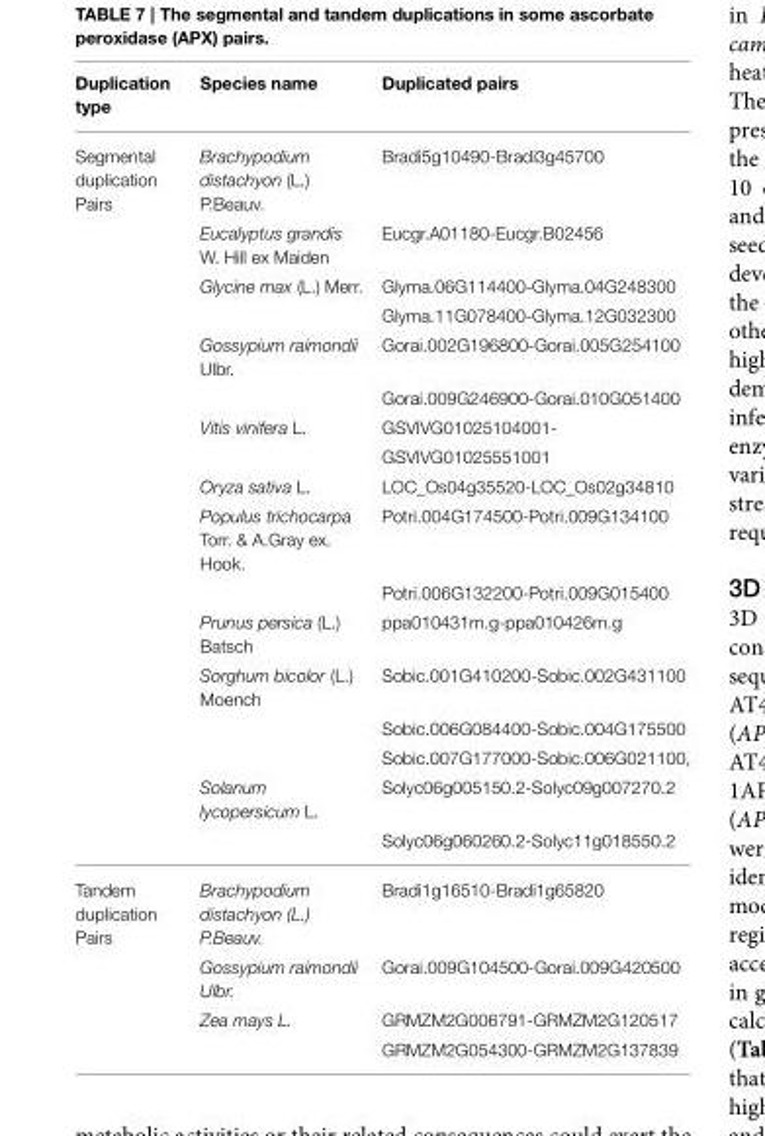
<table><thead><tr><td>Duplication type</td><td>Species name</td><td>Duplicated pairs</td></tr></thead><tbody><tr><td rowspan="17">Segmental duplication Pairs</td><td>Brachypodium distachyon (L.) P.Beauv.</td><td>Bradi5g10490-Bradi3g45700</td></tr><tr><td>Eucalyptus grandis W. Hill ex Maiden</td><td>Eucgr.A01180-Eucgr.B02456</td></tr><tr><td>Glycine max (L.) Merr.</td><td>Glyma.06G114400-Glyma.04G248300</td></tr><tr><td></td><td>Glyma.11G078400-Glyma.12G032300</td></tr><tr><td>Gossypium raimondii Ulbr.</td><td>Gorai.002G196800-Gorai.005G254100</td></tr><tr><td></td><td>Gorai.009G246900-Gorai.010G051400</td></tr><tr><td>Vitis vinifera L.</td><td>GSVIVG01025104001-</td></tr><tr><td></td><td>GSVIVG01025551001</td></tr><tr><td>Oryza sativa L.</td><td>LOC_Os04g35520-LOC_Os02g34810</td></tr><tr><td>Populus trichocarpa Torr. &amp; A.Gray ex. Hook.</td><td>Potri.004G174500-Potri.009G134100</td></tr><tr><td></td><td>Potri.006G132200-Potri.009G015400</td></tr><tr><td>Prunus persica (L.) Batsch</td><td>ppa010431m.g-ppa010426m.g</td></tr><tr><td>Sorghum bicolor (L.) Moench</td><td>Sobic.001G410200-Sobic.002G431100</td></tr><tr><td></td><td>Sobic.006G084400-Sobic.004G175500</td></tr><tr><td></td><td>Sobic.007G177000-Sobic.006G021100,</td></tr><tr><td>Solanum lycopersicum L.</td><td>Solyc06g005150.2-Solyc09g007270.2</td></tr><tr><td></td><td>Solyc06g060260.2-Solyc11g018550.2</td></tr><tr><td rowspan="4">Tandem duplication Pairs</td><td>Brachypodium distachyon (L.) P.Beauv.</td><td>Bradi1g16510-Bradi1g65820</td></tr><tr><td>Gossypium raimondii Ulbr.</td><td>Gorai.009G104500-Gorai.009G420500</td></tr><tr><td>Zea mays L.</td><td>GRMZM2G006791-GRMZM2G120517</td></tr><tr><td></td><td>GRMZM2G054300-GRMZM2G137839</td></tr></tbody></table>